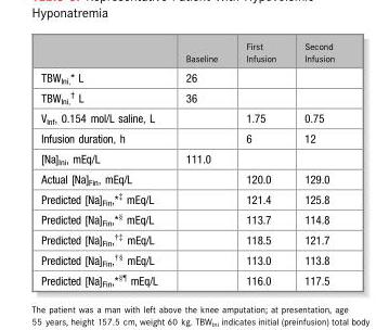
<table><thead><tr><td></td><td>Baseline</td><td>First Infusion</td><td>Second Infusion</td></tr></thead><tbody><tr><td>TBW<sub>Ini,</sub>* L</td><td>26</td><td></td><td></td></tr><tr><td>TBWIni, † L</td><td>36</td><td></td><td></td></tr><tr><td>V<sub>Inf</sub>, 0.154 mol/L saline, L</td><td></td><td>1.75</td><td>0.75</td></tr><tr><td>Infusion duration, h</td><td></td><td>6</td><td>12</td></tr><tr><td>[Na]<sub>Ini</sub>, mEq/L</td><td>111.0</td><td></td><td></td></tr><tr><td>Actual [Na]<sub>Fin</sub>, mEq/L</td><td></td><td>120.0</td><td>129.0</td></tr><tr><td>Predicted [Na]Fin,*‡ mEq/L</td><td></td><td>121.4</td><td>125.8</td></tr><tr><td>Predicted [Na]Fin,*§ mEq/L</td><td></td><td>113.7</td><td>114.8</td></tr><tr><td>Predicted [Na]Fin,†‡ mEq/L</td><td></td><td>118.5</td><td>121.7</td></tr><tr><td>Predicted [Na]Fin,†§ mEq/L</td><td></td><td>113.0</td><td>113.8</td></tr><tr><td>Predicted [Na]Fin,*§¶ mEq/L</td><td></td><td>116.0</td><td>117.5</td></tr></tbody></table>